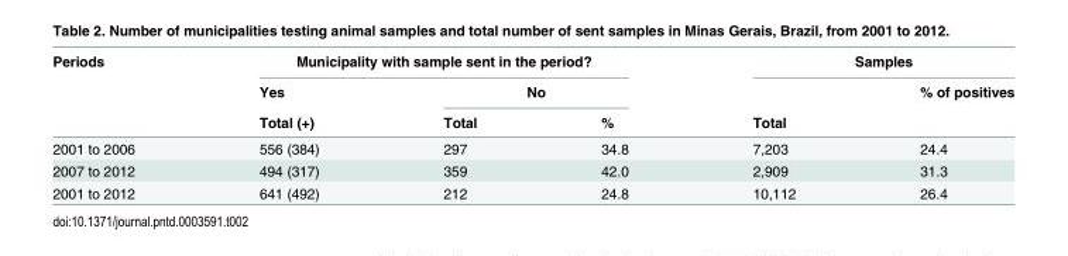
<table><thead><tr><td rowspan="3">Periods</td><td colspan="3">Municipality with sample sent in the period?</td><td colspan="2">Samples</td></tr><tr><td rowspan="2">Yes Total (+)</td><td colspan="2">No</td><td rowspan="2">Total</td><td rowspan="2">% of positives</td></tr><tr><td>Total</td><td>%</td></tr></thead><tbody><tr><td>2001 to 2006</td><td>556 (384)</td><td>297</td><td>34.8</td><td>7,203</td><td>24.4</td></tr><tr><td>2007 to 2012</td><td>494 (317)</td><td>359</td><td>42.0</td><td>2,909</td><td>31.3</td></tr><tr><td>2001 to 2012</td><td>641 (492)</td><td>212</td><td>24.8</td><td>10,112</td><td>26.4</td></tr></tbody></table>